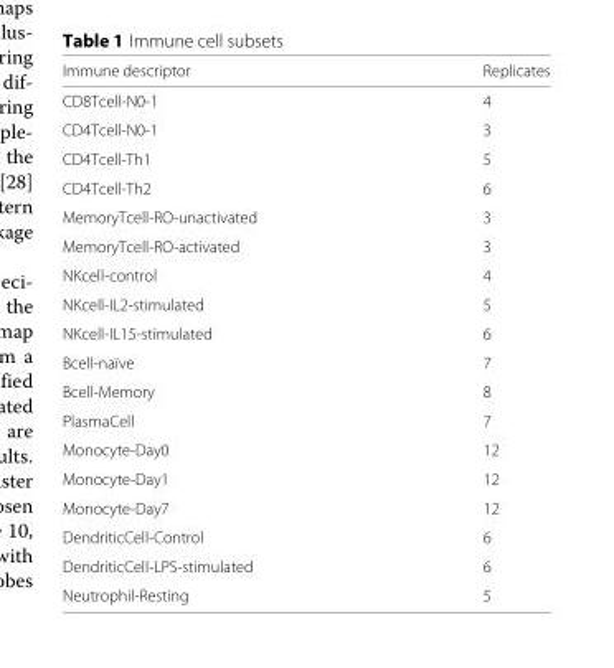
<table><thead><tr><td>Immune descriptor</td><td>Replicates</td></tr></thead><tbody><tr><td>CD8Tcell-N0-1</td><td>4</td></tr><tr><td>CD4Tcell-N0-1</td><td>3</td></tr><tr><td>CD4Tcell-Th1</td><td>5</td></tr><tr><td>CD4Tcell-Th2</td><td>6</td></tr><tr><td>MemoryTcell-RO-unactivated</td><td>3</td></tr><tr><td>MemoryTcell-RO-activated</td><td>3</td></tr><tr><td>NKcell-control</td><td>4</td></tr><tr><td>NKcell-IL2-stimulated</td><td>5</td></tr><tr><td>NKcell-IL15-stimulated</td><td>6</td></tr><tr><td>Bcell-naïve</td><td>7</td></tr><tr><td>Bcell-Memory</td><td>8</td></tr><tr><td>PlasmaCell</td><td>7</td></tr><tr><td>Monocyte-Day0</td><td>12</td></tr><tr><td>Monocyte-Day1</td><td>12</td></tr><tr><td>Monocyte-Day7</td><td>12</td></tr><tr><td>DendriticCell-Control</td><td>6</td></tr><tr><td>DendriticCell-LPS-stimulated</td><td>6</td></tr><tr><td>Neutrophil-Resting</td><td>5</td></tr></tbody></table>